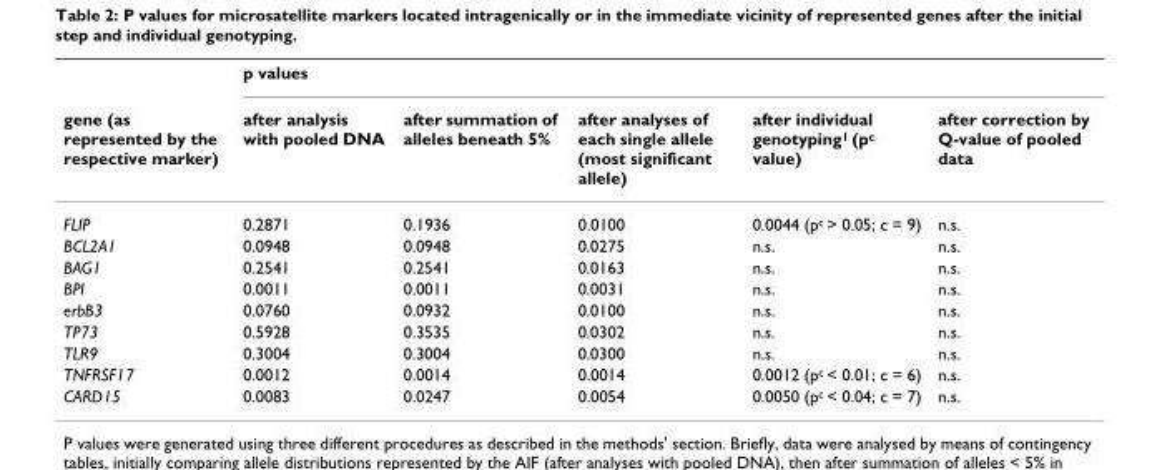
<table><thead><tr><td rowspan="2">gene (as represented by the respective marker)</td><td colspan="5">p values</td></tr><tr><td>after analysis with pooled DNA</td><td>after summation of alleles beneath 5%</td><td>after analyses of each single allele (most significant allele)</td><td>after individual genotyping<sup>1</sup> (p<sup>c</sup> value)</td><td>after correction by Q-value of pooled data</td></tr></thead><tbody><tr><td>FLIP</td><td>0.2871</td><td>0.1936</td><td>0.0100</td><td>0.0044 (p<sup>c</sup> &gt; 0.05; c = 9)</td><td>n.s.</td></tr><tr><td>BCL2A1</td><td>0.0948</td><td>0.0948</td><td>0.0275</td><td>n.s.</td><td>n.s.</td></tr><tr><td>BAG1</td><td>0.2541</td><td>0.2541</td><td>0.0163</td><td>n.s.</td><td>n.s.</td></tr><tr><td>BPI</td><td>0.0011</td><td>0.0011</td><td>0.0031</td><td>n.s.</td><td>n.s.</td></tr><tr><td>erbB3</td><td>0.0760</td><td>0.0932</td><td>0.0100</td><td>n.s.</td><td>n.s.</td></tr><tr><td>TP73</td><td>0.5928</td><td>0.3535</td><td>0.0302</td><td>n.s.</td><td>n.s.</td></tr><tr><td>TLR9</td><td>0.3004</td><td>0.3004</td><td>0.0300</td><td>n.s.</td><td>n.s.</td></tr><tr><td>TNFRSF17</td><td>0.0012</td><td>0.0014</td><td>0.0014</td><td>0.0012 (p<sup>c</sup> &lt; 0.01; c = 6)</td><td>n.s.</td></tr><tr><td>CARD15</td><td>0.0083</td><td>0.0247</td><td>0.0054</td><td>0.0050 (p<sup>c</sup> &lt; 0.04; c = 7)</td><td>n.s.</td></tr></tbody></table>